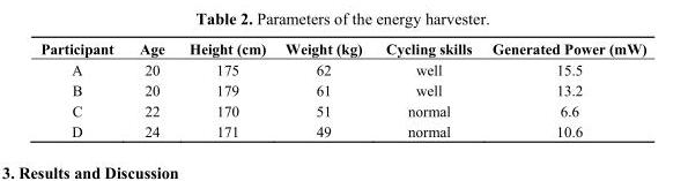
<table><thead><tr><td>Participant</td><td>Age</td><td>Height (cm)</td><td>Weight (kg)</td><td>Cycling skills</td><td>Generated Power (mW)</td></tr></thead><tbody><tr><td>A</td><td>20</td><td>175</td><td>62</td><td>well</td><td>15.5</td></tr><tr><td>B</td><td>20</td><td>179</td><td>61</td><td>well</td><td>13.2</td></tr><tr><td>C</td><td>22</td><td>170</td><td>51</td><td>normal</td><td>6.6</td></tr><tr><td>D</td><td>24</td><td>171</td><td>49</td><td>normal</td><td>10.6</td></tr></tbody></table>